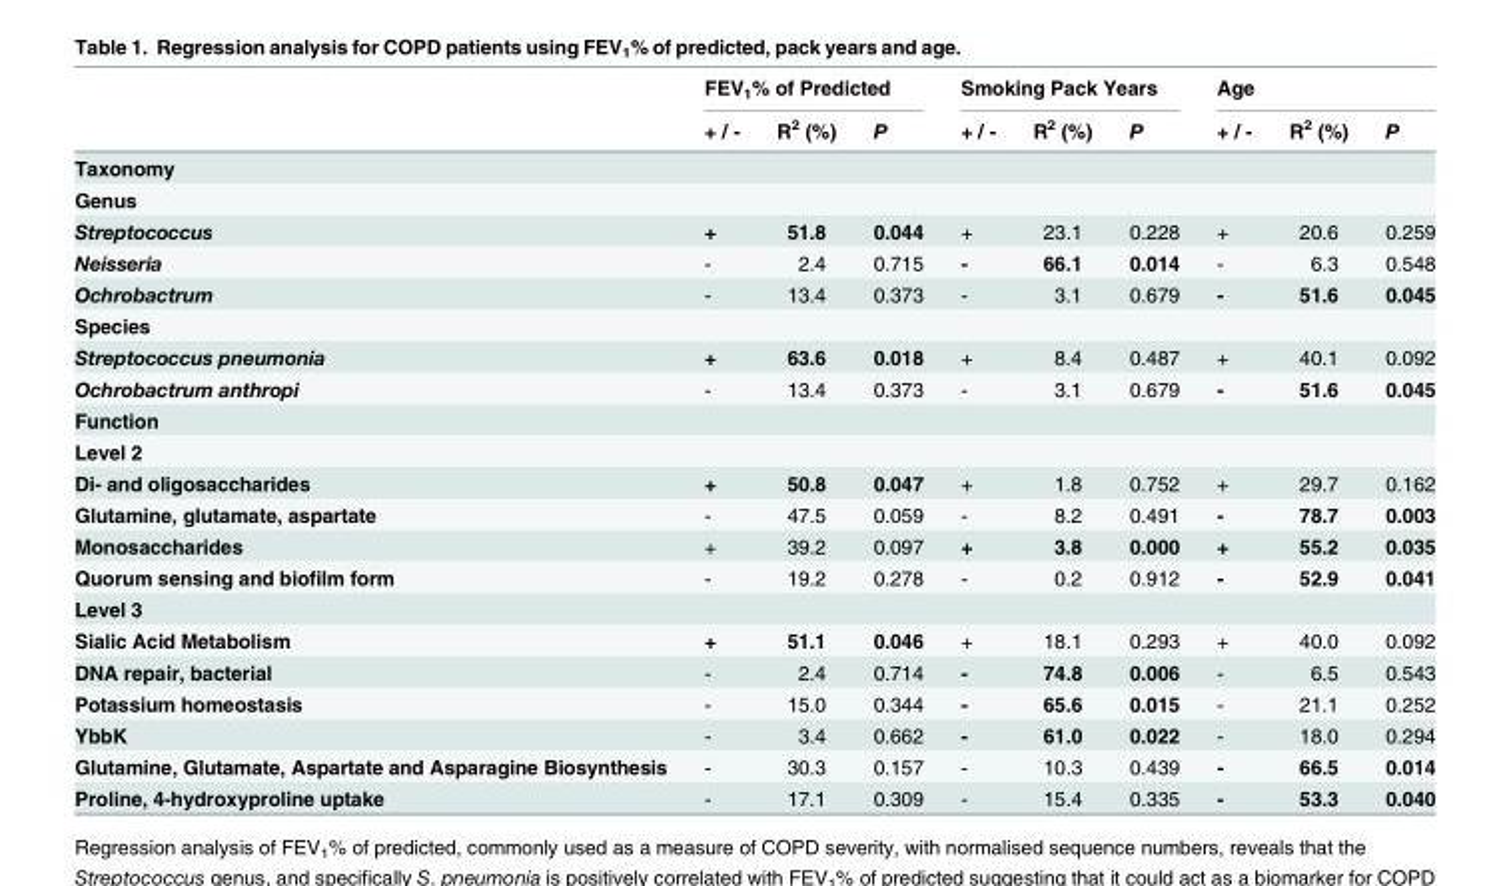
<table><thead><tr><td rowspan="2"></td><td colspan="3">FEV<sub>1</sub>% of Predicted</td><td colspan="3">Smoking Pack Years</td><td colspan="3">Age</td></tr><tr><td>+ / -</td><td>R<sup>2</sup> (%)</td><td>P</td><td>+ / -</td><td>R<sup>2</sup> (%)</td><td>P</td><td>+ / -</td><td>R<sup>2</sup> (%)</td><td>P</td></tr></thead><tbody><tr><td colspan="10">Taxonomy</td></tr><tr><td colspan="10">Genus</td></tr><tr><td>Streptococcus</td><td>+</td><td>51.8</td><td>0.044</td><td>+</td><td>23.1</td><td>0.228</td><td>+</td><td>20.6</td><td>0.259</td></tr><tr><td>Neisseria</td><td>-</td><td>2.4</td><td>0.715</td><td>-</td><td>66.1</td><td>0.014</td><td>-</td><td>6.3</td><td>0.548</td></tr><tr><td>Ochrobactrum</td><td>-</td><td>13.4</td><td>0.373</td><td>-</td><td>3.1</td><td>0.679</td><td>-</td><td>51.6</td><td>0.045</td></tr><tr><td colspan="10">Species</td></tr><tr><td>Streptococcus pneumonia</td><td>+</td><td>63.6</td><td>0.018</td><td>+</td><td>8.4</td><td>0.487</td><td>+</td><td>40.1</td><td>0.092</td></tr><tr><td>Ochrobactrum anthropi</td><td>-</td><td>13.4</td><td>0.373</td><td>-</td><td>3.1</td><td>0.679</td><td>-</td><td>51.6</td><td>0.045</td></tr><tr><td colspan="10">Function</td></tr><tr><td colspan="10">Level 2</td></tr><tr><td>Di- and oligosaccharides</td><td>+</td><td>50.8</td><td>0.047</td><td>+</td><td>1.8</td><td>0.752</td><td>+</td><td>29.7</td><td>0.162</td></tr><tr><td>Glutamine, glutamate, aspartate</td><td>-</td><td>47.5</td><td>0.059</td><td>-</td><td>8.2</td><td>0.491</td><td>-</td><td>78.7</td><td>0.003</td></tr><tr><td>Monosaccharides</td><td>+</td><td>39.2</td><td>0.097</td><td>+</td><td>3.8</td><td>0.000</td><td>+</td><td>55.2</td><td>0.035</td></tr><tr><td>Quorum sensing and biofilm form</td><td>-</td><td>19.2</td><td>0.278</td><td>-</td><td>0.2</td><td>0.912</td><td>-</td><td>52.9</td><td>0.041</td></tr><tr><td colspan="10">Level 3</td></tr><tr><td>Sialic Acid Metabolism</td><td>+</td><td>51.1</td><td>0.046</td><td>+</td><td>18.1</td><td>0.293</td><td>+</td><td>40.0</td><td>0.092</td></tr><tr><td>DNA repair, bacterial</td><td>-</td><td>2.4</td><td>0.714</td><td>-</td><td>74.8</td><td>0.006</td><td>-</td><td>6.5</td><td>0.543</td></tr><tr><td>Potassium homeostasis</td><td>-</td><td>15.0</td><td>0.344</td><td>-</td><td>65.6</td><td>0.015</td><td>-</td><td>21.1</td><td>0.252</td></tr><tr><td>YbbK</td><td>-</td><td>3.4</td><td>0.662</td><td>-</td><td>61.0</td><td>0.022</td><td>-</td><td>18.0</td><td>0.294</td></tr><tr><td>Glutamine, Glutamate, Aspartate and Asparagine Biosynthesis</td><td>-</td><td>30.3</td><td>0.157</td><td>-</td><td>10.3</td><td>0.439</td><td>-</td><td>66.5</td><td>0.014</td></tr><tr><td>Proline, 4-hydroxyproline uptake</td><td>-</td><td>17.1</td><td>0.309</td><td>-</td><td>15.4</td><td>0.335</td><td>-</td><td>53.3</td><td>0.040</td></tr></tbody></table>